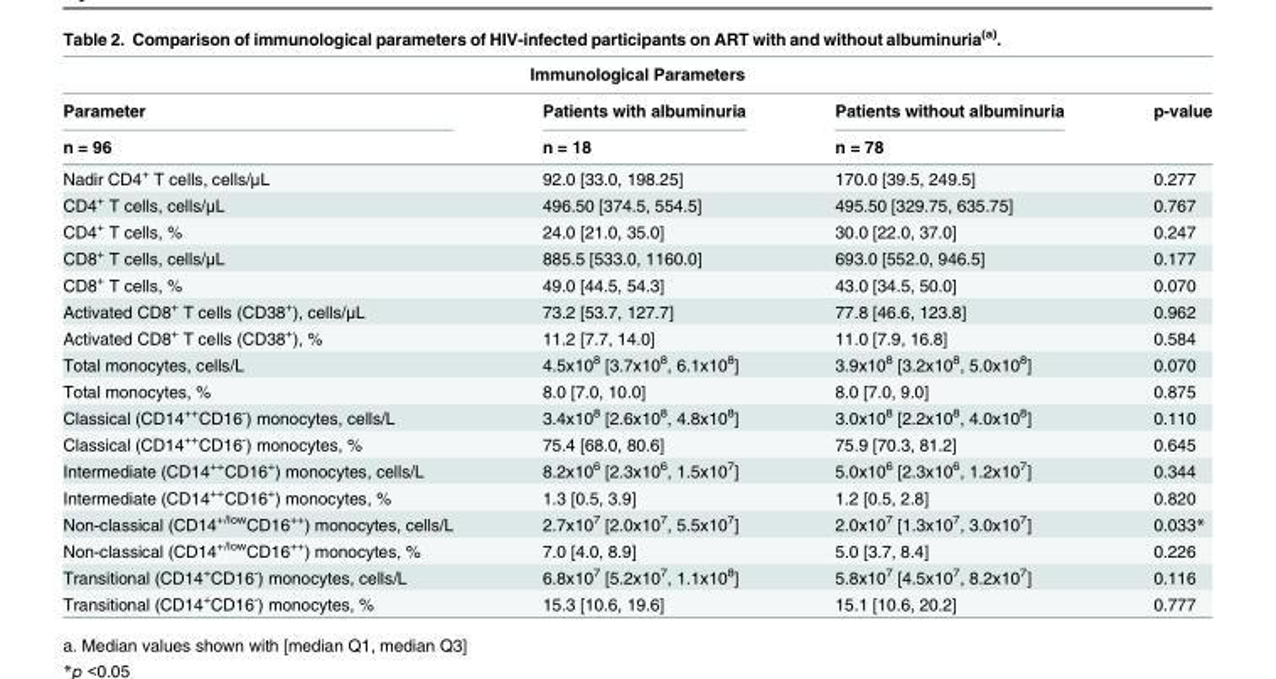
<table><thead><tr><td colspan="4">Immunological Parameters</td></tr><tr><td rowspan="2">Parameter n = 96</td><td rowspan="2">Patients with albuminuria n = 18</td><td rowspan="2">Patients without albuminuria n = 78</td><td rowspan="2">p-value</td></tr><tr></tr></thead><tbody><tr><td>Nadir CD4<sup>+</sup> T cells, cells/μL</td><td>92.0 [33.0, 198.25]</td><td>170.0 [39.5, 249.5]</td><td>0.277</td></tr><tr><td>CD4<sup>+</sup> T cells, cells/μL</td><td>496.50 [374.5, 554.5]</td><td>495.50 [329.75, 635.75]</td><td>0.767</td></tr><tr><td>CD4<sup>+</sup> T cells, %</td><td>24.0 [21.0, 35.0]</td><td>30.0 [22.0, 37.0]</td><td>0.247</td></tr><tr><td>CD8<sup>+</sup> T cells, cells/μL</td><td>885.5 [533.0, 1160.0]</td><td>693.0 [552.0, 946.5]</td><td>0.177</td></tr><tr><td>CD8<sup>+</sup> T cells, %</td><td>49.0 [44.5, 54.3]</td><td>43.0 [34.5, 50.0]</td><td>0.070</td></tr><tr><td>Activated CD8<sup>+</sup> T cells (CD38<sup>+</sup>), cells/μL</td><td>73.2 [53.7, 127.7]</td><td>77.8 [46.6, 123.8]</td><td>0.962</td></tr><tr><td>Activated CD8<sup>+</sup> T cells (CD38<sup>+</sup>), %</td><td>11.2 [7.7, 14.0]</td><td>11.0 [7.9, 16.8]</td><td>0.584</td></tr><tr><td>Total monocytes, cells/L</td><td>4.5x10<sup>8</sup> [3.7x10<sup>8</sup>, 6.1x10<sup>8</sup>]</td><td>3.9x10<sup>8</sup> [3.2x10<sup>8</sup>, 5.0x10<sup>8</sup>]</td><td>0.070</td></tr><tr><td>Total monocytes, %</td><td>8.0 [7.0, 10.0]</td><td>8.0 [7.0, 9.0]</td><td>0.875</td></tr><tr><td>Classical (CD14<sup>++</sup>CD16<sup>-</sup>) monocytes, cells/L</td><td>3.4x10<sup>8</sup> [2.6x10<sup>8</sup>, 4.8x10<sup>8</sup>]</td><td>3.0x10<sup>8</sup> [2.2x10<sup>8</sup>, 4.0x10<sup>8</sup>]</td><td>0.110</td></tr><tr><td>Classical (CD14<sup>++</sup>CD16<sup>-</sup>) monocytes, %</td><td>75.4 [68.0, 80.6]</td><td>75.9 [70.3, 81.2]</td><td>0.645</td></tr><tr><td>Intermediate (CD14<sup>++</sup>CD16<sup>+</sup>) monocytes, cells/L</td><td>8.2x10<sup>6</sup> [2.3x10<sup>6</sup>, 1.5x10<sup>7</sup>]</td><td>5.0x10<sup>6</sup> [2.3x10<sup>6</sup>, 1.2x10<sup>7</sup>]</td><td>0.344</td></tr><tr><td>Intermediate (CD14<sup>++</sup>CD16<sup>+</sup>) monocytes, %</td><td>1.3 [0.5, 3.9]</td><td>1.2 [0.5, 2.8]</td><td>0.820</td></tr><tr><td>Non-classical (CD14<sup>+/low</sup>CD16<sup>++</sup>) monocytes, cells/L</td><td>2.7x10<sup>7</sup> [2.0x10<sup>7</sup>, 5.5x10<sup>7</sup>]</td><td>2.0x10<sup>7</sup> [1.3x10<sup>7</sup>, 3.0x10<sup>7</sup>]</td><td>0.033*</td></tr><tr><td>Non-classical (CD14<sup>+/low</sup>CD16<sup>++</sup>) monocytes, %</td><td>7.0 [4.0, 8.9]</td><td>5.0 [3.7, 8.4]</td><td>0.226</td></tr><tr><td>Transitional (CD14<sup>+</sup>CD16<sup>-</sup>) monocytes, cells/L</td><td>6.8x10<sup>7</sup> [5.2x10<sup>7</sup>, 1.1x10<sup>8</sup>]</td><td>5.8x10<sup>7</sup> [4.5x10<sup>7</sup>, 8.2x10<sup>7</sup>]</td><td>0.116</td></tr><tr><td>Transitional (CD14<sup>+</sup>CD16<sup>-</sup>) monocytes, %</td><td>15.3 [10.6, 19.6]</td><td>15.1 [10.6, 20.2]</td><td>0.777</td></tr></tbody></table>